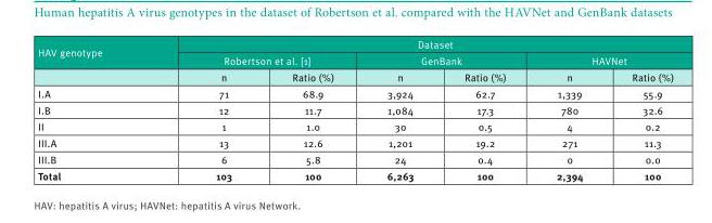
<table><thead><tr><td rowspan="3">HAV genotype</td><td colspan="6">Dataset</td></tr><tr><td colspan="2">Robertson et al. [1]</td><td colspan="2">GenBank</td><td colspan="2">HAVNet</td></tr><tr><td>n</td><td>Ratio (%)</td><td>n</td><td>Ratio (%)</td><td>n</td><td>Ratio (%)</td></tr></thead><tbody><tr><td>I.A</td><td>71</td><td>68.9</td><td>3,924</td><td>62.7</td><td>1,339</td><td>55.9</td></tr><tr><td>I.B</td><td>12</td><td>11.7</td><td>1,084</td><td>17.3</td><td>780</td><td>32.6</td></tr><tr><td>II</td><td>1</td><td>1.0</td><td>30</td><td>0.5</td><td>4</td><td>0.2</td></tr><tr><td>III.A</td><td>13</td><td>12.6</td><td>1,201</td><td>19.2</td><td>271</td><td>11.3</td></tr><tr><td>III.B</td><td>6</td><td>5.8</td><td>24</td><td>0.4</td><td>0</td><td>0.0</td></tr><tr><td>Total</td><td>103</td><td>100</td><td>6,263</td><td>100</td><td>2,394</td><td>100</td></tr></tbody></table>